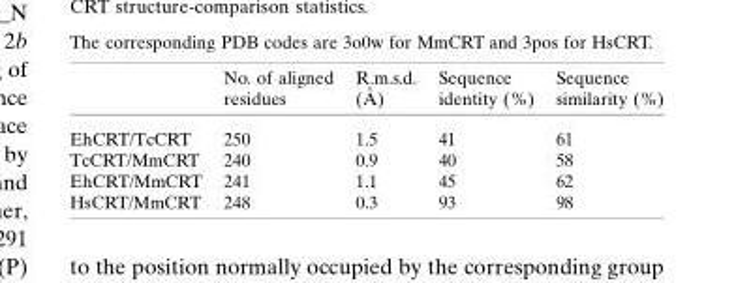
<table><thead><tr><td></td><td>No. of aligned residues</td><td>R.m.s.d. (A˚ )</td><td>Sequence identity (%)</td><td>Sequence similarity (%)</td></tr></thead><tbody><tr><td>EhCRT/TcCRT</td><td>250</td><td>1.5</td><td>41</td><td>61</td></tr><tr><td>TcCRT/MmCRT</td><td>240</td><td>0.9</td><td>40</td><td>58</td></tr><tr><td>EhCRT/MmCRT</td><td>241</td><td>1.1</td><td>45</td><td>62</td></tr><tr><td>HsCRT/MmCRT</td><td>248</td><td>0.3</td><td>93</td><td>98</td></tr></tbody></table>